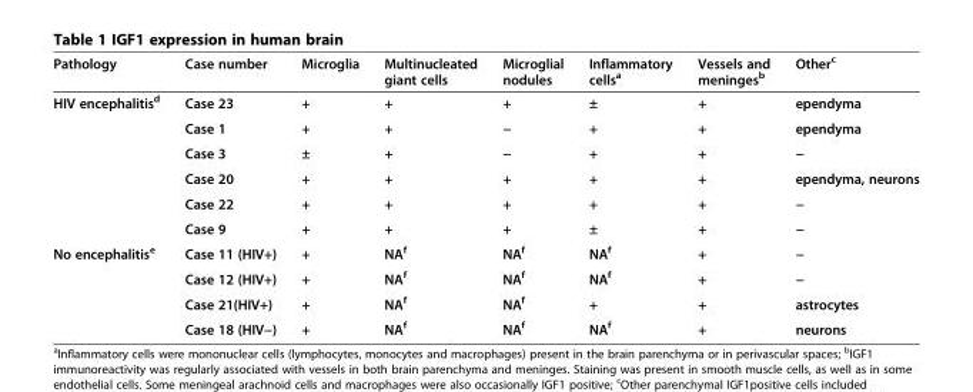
<table><thead><tr><td>Pathology</td><td>Case number</td><td>Microglia</td><td>Multinucleated giant cells</td><td>Microglial nodules</td><td>Inflammatory cells<sup>a</sup></td><td>Vessels and meninges<sup>b</sup></td><td>Other<sup>c</sup></td></tr></thead><tbody><tr><td rowspan="6">HIV encephalitis<sup>d</sup></td><td>Case 23</td><td>+</td><td>+</td><td>+</td><td>±</td><td>+</td><td>ependyma</td></tr><tr><td>Case 1</td><td>+</td><td>+</td><td>−</td><td>+</td><td>+</td><td>ependyma</td></tr><tr><td>Case 3</td><td>±</td><td>+</td><td>−</td><td>+</td><td>+</td><td>−</td></tr><tr><td>Case 20</td><td>+</td><td>+</td><td>+</td><td>+</td><td>+</td><td>ependyma, neurons</td></tr><tr><td>Case 22</td><td>+</td><td>+</td><td>+</td><td>+</td><td>+</td><td>−</td></tr><tr><td>Case 9</td><td>+</td><td>+</td><td>+</td><td>±</td><td>+</td><td>−</td></tr><tr><td rowspan="4">No encephalitis<sup>e</sup></td><td>Case 11 (HIV+)</td><td>+</td><td>NA<sup>f</sup></td><td>NA<sup>f</sup></td><td>NA<sup>f</sup></td><td>+</td><td>−</td></tr><tr><td>Case 12 (HIV+)</td><td>+</td><td>NA<sup>f</sup></td><td>NA<sup>f</sup></td><td>NA<sup>f</sup></td><td>+</td><td>−</td></tr><tr><td>Case 21(HIV+)</td><td>+</td><td>NA<sup>f</sup></td><td>NA<sup>f</sup></td><td>+</td><td>+</td><td>astrocytes</td></tr><tr><td>Case 18 (HIV−)</td><td>+</td><td>NA<sup>f</sup></td><td>NA<sup>f</sup></td><td>NA<sup>f</sup></td><td>+</td><td>neurons</td></tr></tbody></table>